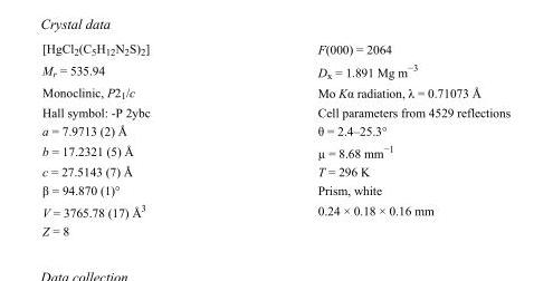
<table><tbody><tr><td>[HgCl<sub>2</sub>(C<sub>5</sub>H<sub>12</sub>N<sub>2</sub>S)<sub>2</sub>]</td><td>F(000) = 2064</td></tr><tr><td>M<sub>r</sub> = 535.94</td><td>D<sub>x</sub> = 1.891 Mg m<sup>−3</sup></td></tr><tr><td>Monoclinic, P2<sub>1</sub>/c</td><td>Mo Kα radiation, λ = 0.71073 Å</td></tr><tr><td>Hall symbol: -P 2ybc</td><td>Cell parameters from 4529 reflections</td></tr><tr><td>a = 7.9713 (2) Å</td><td>θ = 2.4–25.3°</td></tr><tr><td>b = 17.2321 (5) Å</td><td>µ = 8.68 mm<sup>−1</sup></td></tr><tr><td>c = 27.5143 (7) Å</td><td>T = 296 K</td></tr><tr><td>β = 94.870 (1)°</td><td>Prism, white</td></tr><tr><td>V = 3765.78 (17) Å<sup>3</sup></td><td>0.24 × 0.18 × 0.16 mm</td></tr><tr><td>Z = 8</td><td></td></tr></tbody></table>